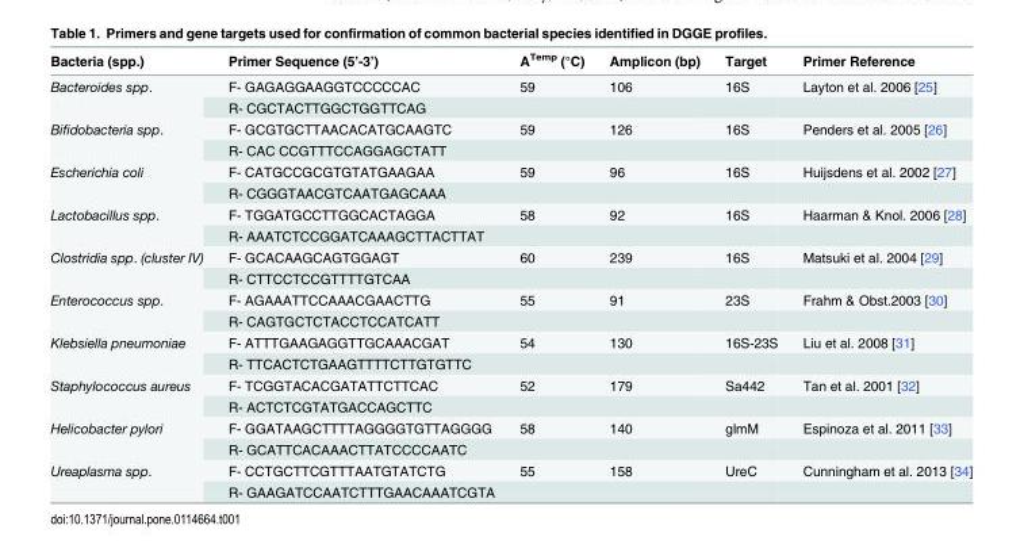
<table><thead><tr><td>Bacteria (spp.)</td><td>Primer Sequence (5’-3’)</td><td>A<sup>Temp</sup> (°C)</td><td>Amplicon (bp)</td><td>Target</td><td>Primer Reference</td></tr></thead><tbody><tr><td rowspan="2">Bacteroides spp.</td><td>F- GAGAGGAAGGTCCCCCAC</td><td>59</td><td>106</td><td>16S</td><td>Layton et al. 2006 [25]</td></tr><tr><td>R- CGCTACTTGGCTGGTTCAG</td><td></td><td></td><td></td><td></td></tr><tr><td rowspan="2">Bifidobacteria spp.</td><td>F- GCGTGCTTAACACATGCAAGTC</td><td>59</td><td>126</td><td>16S</td><td>Penders et al. 2005 [26]</td></tr><tr><td>R- CAC CCGTTTCCAGGAGCTATT</td><td></td><td></td><td></td><td></td></tr><tr><td rowspan="2">Escherichia coli</td><td>F- CATGCCGCGTGTATGAAGAA</td><td>59</td><td>96</td><td>16S</td><td>Huijsdens et al. 2002 [27]</td></tr><tr><td>R- CGGGTAACGTCAATGAGCAAA</td><td></td><td></td><td></td><td></td></tr><tr><td rowspan="2">Lactobacillus spp.</td><td>F- TGGATGCCTTGGCACTAGGA</td><td>58</td><td>92</td><td>16S</td><td>Haarman &amp; Knol. 2006 [28]</td></tr><tr><td>R- AAATCTCCGGATCAAAGCTTACTTAT</td><td></td><td></td><td></td><td></td></tr><tr><td rowspan="2">Clostridia spp. (cluster IV)</td><td>F- GCACAAGCAGTGGAGT</td><td>60</td><td>239</td><td>16S</td><td>Matsuki et al. 2004 [29]</td></tr><tr><td>R- CTTCCTCCGTTTTGTCAA</td><td></td><td></td><td></td><td></td></tr><tr><td rowspan="2">Enterococcus spp.</td><td>F- AGAAATTCCAAACGAACTTG</td><td>55</td><td>91</td><td>23S</td><td>Frahm &amp; Obst.2003 [30]</td></tr><tr><td>R- CAGTGCTCTACCTCCATCATT</td><td></td><td></td><td></td><td></td></tr><tr><td rowspan="2">Klebsiella pneumoniae</td><td>F- ATTTGAAGAGGTTGCAAACGAT</td><td>54</td><td>130</td><td>16S-23S</td><td>Liu et al. 2008 [31]</td></tr><tr><td>R- TTCACTCTGAAGTTTTCTTGTGTTC</td><td></td><td></td><td></td><td></td></tr><tr><td rowspan="2">Staphylococcus aureus</td><td>F- TCGGTACACGATATTCTTCAC</td><td>52</td><td>179</td><td>Sa442</td><td>Tan et al. 2001 [32]</td></tr><tr><td>R- ACTCTCGTATGACCAGCTTC</td><td></td><td></td><td></td><td></td></tr><tr><td rowspan="2">Helicobacter pylori</td><td>F- GGATAAGCTTTTAGGGGTGTTAGGGG</td><td>58</td><td>140</td><td>glmM</td><td>Espinoza et al. 2011 [33]</td></tr><tr><td>R- GCATTCACAAACTTATCCCCAATC</td><td></td><td></td><td></td><td></td></tr><tr><td rowspan="2">Ureaplasma spp.</td><td>F- CCTGCTTCGTTTAATGTATCTG</td><td>55</td><td>158</td><td>UreC</td><td>Cunningham et al. 2013 [34]</td></tr><tr><td>R- GAAGATCCAATCTTTGAACAAATCGTA</td><td></td><td></td><td></td><td></td></tr></tbody></table>